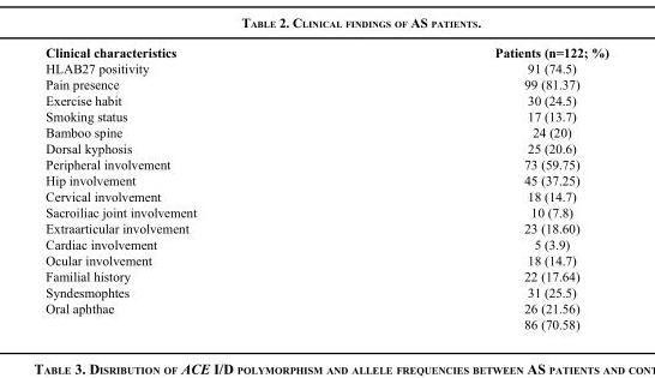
<table><thead><tr><td>Clinical characteristics</td><td>Patients (n=122; %)</td></tr></thead><tbody><tr><td>HLAB27 positivity</td><td>91 (74.5)</td></tr><tr><td>Pain presence</td><td>99 (81.37)</td></tr><tr><td>Exercise habit</td><td>30 (24.5)</td></tr><tr><td>Smoking status</td><td>17 (13.7)</td></tr><tr><td>Bamboo spine</td><td>24 (20)</td></tr><tr><td>Dorsal kyphosis</td><td>25 (20.6)</td></tr><tr><td>Peripheral involvement</td><td>73 (59.75)</td></tr><tr><td>Hip involvement</td><td>45 (37.25)</td></tr><tr><td>Cervical involvement</td><td>18 (14.7)</td></tr><tr><td>Sacroiliac joint involvement</td><td>10 (7.8)</td></tr><tr><td>Extraarticular involvement</td><td>23 (18.60)</td></tr><tr><td>Cardiac involvement</td><td>5 (3.9)</td></tr><tr><td>Ocular involvement</td><td>18 (14.7)</td></tr><tr><td>Familial history</td><td>22 (17.64)</td></tr><tr><td>Syndesmophtes</td><td>31 (25.5)</td></tr><tr><td rowspan="2">Oral aphthae</td><td>26 (21.56)</td></tr><tr><td>86 (70.58)</td></tr></tbody></table>